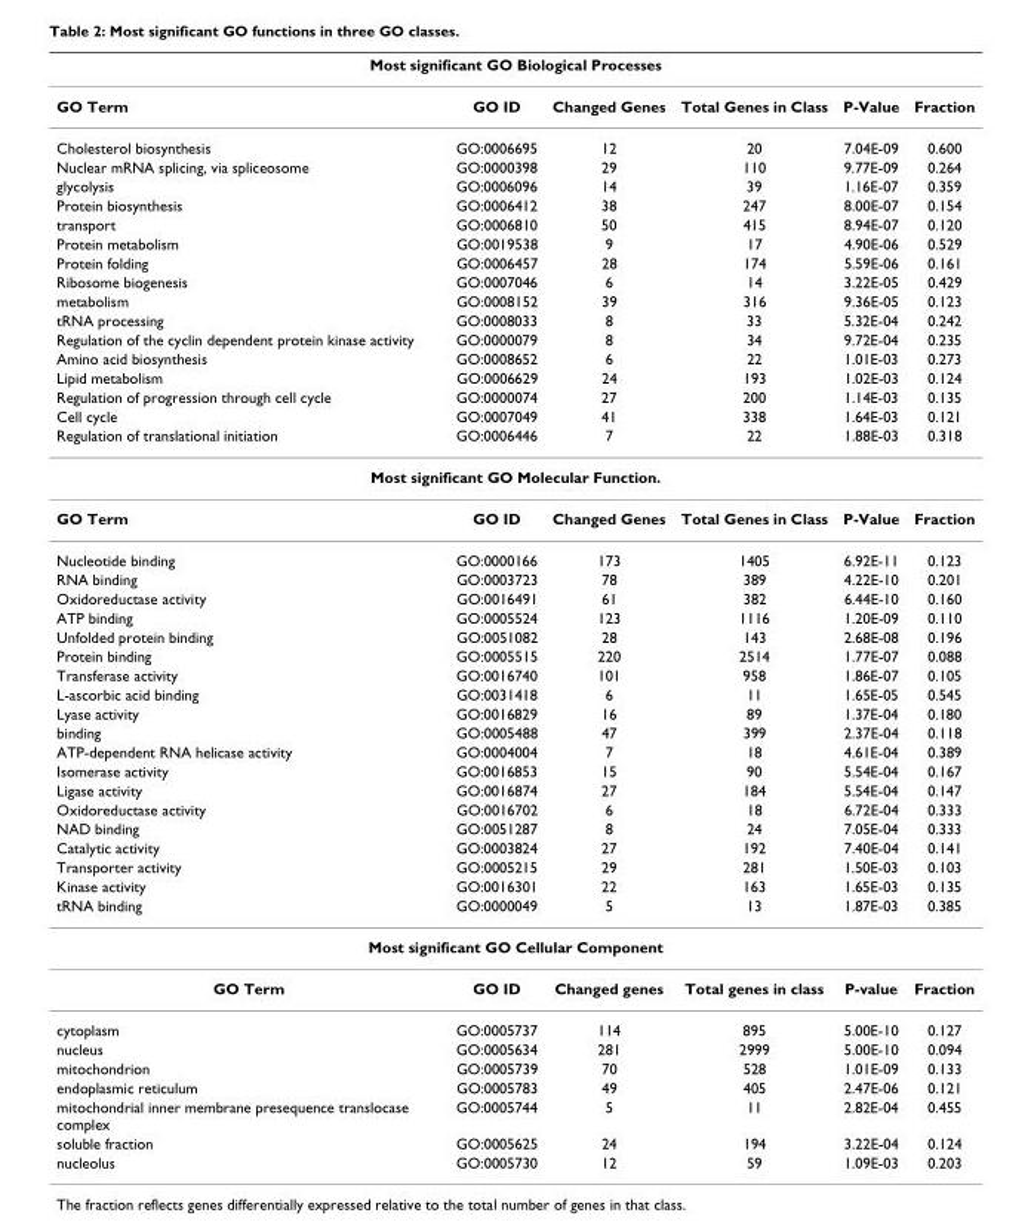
<table><thead><tr><td colspan="6">Most significant GO Biological Processes</td></tr><tr><td>GO Term</td><td>GO ID</td><td>Changed Genes</td><td>Total Genes in Class</td><td>P-Value</td><td>Fraction</td></tr></thead><tbody><tr><td>Cholesterol biosynthesis</td><td>GO:0006695</td><td>12</td><td>20</td><td>7.04E-09</td><td>0.600</td></tr><tr><td>Nuclear mRNA splicing, via spliceosome</td><td>GO:0000398</td><td>29</td><td>110</td><td>9.77E-09</td><td>0.264</td></tr><tr><td>glycolysis</td><td>GO:0006096</td><td>14</td><td>39</td><td>1.16E-07</td><td>0.359</td></tr><tr><td>Protein biosynthesis</td><td>GO:0006412</td><td>38</td><td>247</td><td>8.00E-07</td><td>0.154</td></tr><tr><td>transport</td><td>GO:0006810</td><td>50</td><td>415</td><td>8.94E-07</td><td>0.120</td></tr><tr><td>Protein metabolism</td><td>GO:0019538</td><td>9</td><td>17</td><td>4.90E-06</td><td>0.529</td></tr><tr><td>Protein folding</td><td>GO:0006457</td><td>28</td><td>174</td><td>5.59E-06</td><td>0.161</td></tr><tr><td>Ribosome biogenesis</td><td>GO:0007046</td><td>6</td><td>14</td><td>3.22E-05</td><td>0.429</td></tr><tr><td>metabolism</td><td>GO:0008152</td><td>39</td><td>316</td><td>9.36E-05</td><td>0.123</td></tr><tr><td>tRNA processing</td><td>GO:0008033</td><td>8</td><td>33</td><td>5.32E-04</td><td>0.242</td></tr><tr><td>Regulation of the cyclin dependent protein kinase activity</td><td>GO:0000079</td><td>8</td><td>34</td><td>9.72E-04</td><td>0.235</td></tr><tr><td>Amino acid biosynthesis</td><td>GO:0008652</td><td>6</td><td>22</td><td>1.01E-03</td><td>0.273</td></tr><tr><td>Lipid metabolism</td><td>GO:0006629</td><td>24</td><td>193</td><td>1.02E-03</td><td>0.124</td></tr><tr><td>Regulation of progression through cell cycle</td><td>GO:0000074</td><td>27</td><td>200</td><td>1.14E-03</td><td>0.135</td></tr><tr><td>Cell cycle</td><td>GO:0007049</td><td>41</td><td>338</td><td>1.64E-03</td><td>0.121</td></tr><tr><td>Regulation of translational initiation</td><td>GO:0006446</td><td>7</td><td>22</td><td>1.88E-03</td><td>0.318</td></tr><tr><td colspan="6">Most significant GO Molecular Function.</td></tr><tr><td>GO Term</td><td>GO ID</td><td>Changed Genes</td><td>Total Genes in Class</td><td>P-Value</td><td>Fraction</td></tr><tr><td>Nucleotide binding</td><td>GO:0000166</td><td>173</td><td>1405</td><td>6.92E-11</td><td>0.123</td></tr><tr><td>RNA binding</td><td>GO:0003723</td><td>78</td><td>389</td><td>4.22E-10</td><td>0.201</td></tr><tr><td>Oxidoreductase activity</td><td>GO:0016491</td><td>61</td><td>382</td><td>6.44E-10</td><td>0.160</td></tr><tr><td>ATP binding</td><td>GO:0005524</td><td>123</td><td>1116</td><td>1.20E-09</td><td>0.110</td></tr><tr><td>Unfolded protein binding</td><td>GO:0051082</td><td>28</td><td>143</td><td>2.68E-08</td><td>0.196</td></tr><tr><td>Protein binding</td><td>GO:0005515</td><td>220</td><td>2514</td><td>1.77E-07</td><td>0.088</td></tr><tr><td>Transferase activity</td><td>GO:0016740</td><td>101</td><td>958</td><td>1.86E-07</td><td>0.105</td></tr><tr><td>L-ascorbic acid binding</td><td>GO:0031418</td><td>6</td><td>11</td><td>1.65E-05</td><td>0.545</td></tr><tr><td>Lyase activity</td><td>GO:0016829</td><td>16</td><td>89</td><td>1.37E-04</td><td>0.180</td></tr><tr><td>binding</td><td>GO:0005488</td><td>47</td><td>399</td><td>2.37E-04</td><td>0.118</td></tr><tr><td>ATP-dependent RNA helicase activity</td><td>GO:0004004</td><td>7</td><td>18</td><td>4.61E-04</td><td>0.389</td></tr><tr><td>Isomerase activity</td><td>GO:0016853</td><td>15</td><td>90</td><td>5.54E-04</td><td>0.167</td></tr><tr><td>Ligase activity</td><td>GO:0016874</td><td>27</td><td>184</td><td>5.54E-04</td><td>0.147</td></tr><tr><td>Oxidoreductase activity</td><td>GO:0016702</td><td>6</td><td>18</td><td>6.72E-04</td><td>0.333</td></tr><tr><td>NAD binding</td><td>GO:0051287</td><td>8</td><td>24</td><td>7.05E-04</td><td>0.333</td></tr><tr><td>Catalytic activity</td><td>GO:0003824</td><td>27</td><td>192</td><td>7.40E-04</td><td>0.141</td></tr><tr><td>Transporter activity</td><td>GO:0005215</td><td>29</td><td>281</td><td>1.50E-03</td><td>0.103</td></tr><tr><td>Kinase activity</td><td>GO:0016301</td><td>22</td><td>163</td><td>1.65E-03</td><td>0.135</td></tr><tr><td>tRNA binding</td><td>GO:0000049</td><td>5</td><td>13</td><td>1.87E-03</td><td>0.385</td></tr><tr><td colspan="6">Most significant GO Cellular Component</td></tr><tr><td>GO Term</td><td>GO ID</td><td>Changed genes</td><td>Total genes in class</td><td>P-value</td><td>Fraction</td></tr><tr><td>cytoplasm</td><td>GO:0005737</td><td>114</td><td>895</td><td>5.00E-10</td><td>0.127</td></tr><tr><td>nucleus</td><td>GO:0005634</td><td>281</td><td>2999</td><td>5.00E-10</td><td>0.094</td></tr><tr><td>mitochondrion</td><td>GO:0005739</td><td>70</td><td>528</td><td>1.01E-09</td><td>0.133</td></tr><tr><td>endoplasmic reticulum</td><td>GO:0005783</td><td>49</td><td>405</td><td>2.47E-06</td><td>0.121</td></tr><tr><td>mitochondrial inner membrane presequence translocase complex</td><td>GO:0005744</td><td>5</td><td>11</td><td>2.82E-04</td><td>0.455</td></tr><tr><td>soluble fraction</td><td>GO:0005625</td><td>24</td><td>194</td><td>3.22E-04</td><td>0.124</td></tr><tr><td>nucleolus</td><td>GO:0005730</td><td>12</td><td>59</td><td>1.09E-03</td><td>0.203</td></tr></tbody></table>